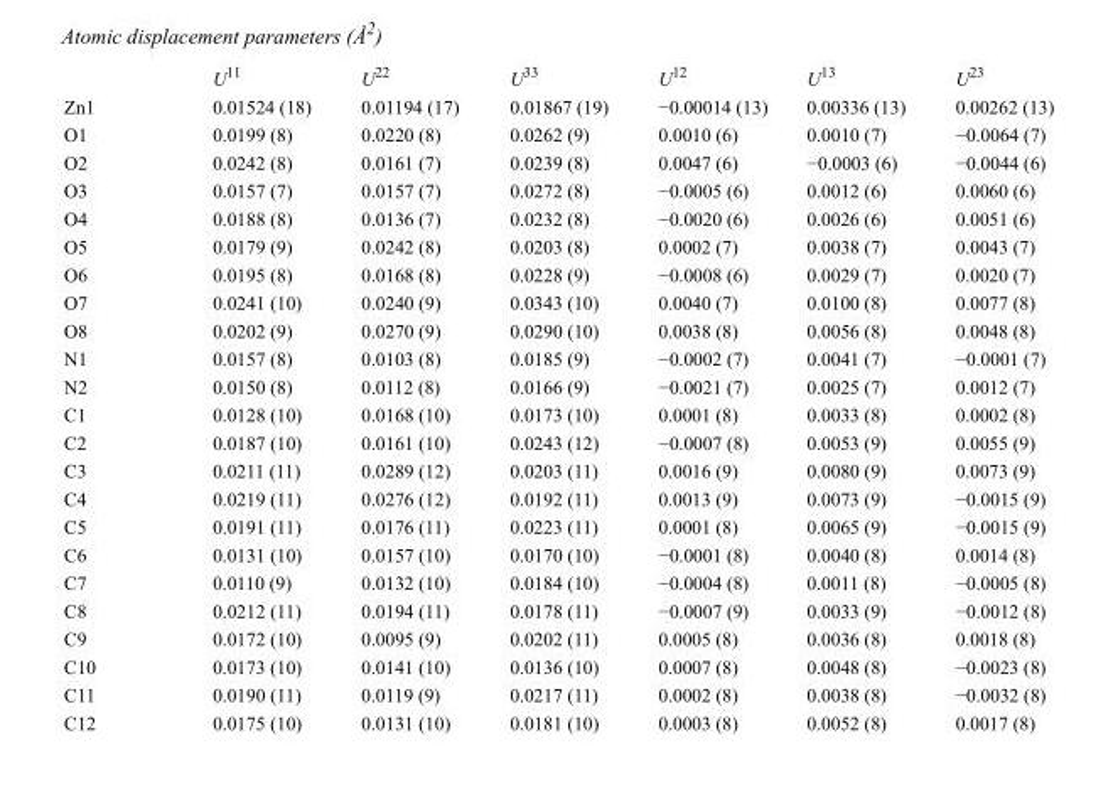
<table><thead><tr><td></td><td>U<sup>11</sup></td><td>U<sup>22</sup></td><td>U<sup>33</sup></td><td>U<sup>12</sup></td><td>U<sup>13</sup></td><td>U<sup>23</sup></td></tr></thead><tbody><tr><td>Zn1</td><td>0.01524 (18)</td><td>0.01194 (17)</td><td>0.01867 (19)</td><td>−0.00014 (13)</td><td>0.00336 (13)</td><td>0.00262 (13)</td></tr><tr><td>O1</td><td>0.0199 (8)</td><td>0.0220 (8)</td><td>0.0262 (9)</td><td>0.0010 (6)</td><td>0.0010 (7)</td><td>−0.0064 (7)</td></tr><tr><td>O2</td><td>0.0242 (8)</td><td>0.0161 (7)</td><td>0.0239 (8)</td><td>0.0047 (6)</td><td>−0.0003 (6)</td><td>−0.0044 (6)</td></tr><tr><td>O3</td><td>0.0157 (7)</td><td>0.0157 (7)</td><td>0.0272 (8)</td><td>−0.0005 (6)</td><td>0.0012 (6)</td><td>0.0060 (6)</td></tr><tr><td>O4</td><td>0.0188 (8)</td><td>0.0136 (7)</td><td>0.0232 (8)</td><td>−0.0020 (6)</td><td>0.0026 (6)</td><td>0.0051 (6)</td></tr><tr><td>O5</td><td>0.0179 (9)</td><td>0.0242 (8)</td><td>0.0203 (8)</td><td>0.0002 (7)</td><td>0.0038 (7)</td><td>0.0043 (7)</td></tr><tr><td>O6</td><td>0.0195 (8)</td><td>0.0168 (8)</td><td>0.0228 (9)</td><td>−0.0008 (6)</td><td>0.0029 (7)</td><td>0.0020 (7)</td></tr><tr><td>O7</td><td>0.0241 (10)</td><td>0.0240 (9)</td><td>0.0343 (10)</td><td>0.0040 (7)</td><td>0.0100 (8)</td><td>0.0077 (8)</td></tr><tr><td>O8</td><td>0.0202 (9)</td><td>0.0270 (9)</td><td>0.0290 (10)</td><td>0.0038 (8)</td><td>0.0056 (8)</td><td>0.0048 (8)</td></tr><tr><td>N1</td><td>0.0157 (8)</td><td>0.0103 (8)</td><td>0.0185 (9)</td><td>−0.0002 (7)</td><td>0.0041 (7)</td><td>−0.0001 (7)</td></tr><tr><td>N2</td><td>0.0150 (8)</td><td>0.0112 (8)</td><td>0.0166 (9)</td><td>−0.0021 (7)</td><td>0.0025 (7)</td><td>0.0012 (7)</td></tr><tr><td>C1</td><td>0.0128 (10)</td><td>0.0168 (10)</td><td>0.0173 (10)</td><td>0.0001 (8)</td><td>0.0033 (8)</td><td>0.0002 (8)</td></tr><tr><td>C2</td><td>0.0187 (10)</td><td>0.0161 (10)</td><td>0.0243 (12)</td><td>−0.0007 (8)</td><td>0.0053 (9)</td><td>0.0055 (9)</td></tr><tr><td>C3</td><td>0.0211 (11)</td><td>0.0289 (12)</td><td>0.0203 (11)</td><td>0.0016 (9)</td><td>0.0080 (9)</td><td>0.0073 (9)</td></tr><tr><td>C4</td><td>0.0219 (11)</td><td>0.0276 (12)</td><td>0.0192 (11)</td><td>0.0013 (9)</td><td>0.0073 (9)</td><td>−0.0015 (9)</td></tr><tr><td>C5</td><td>0.0191 (11)</td><td>0.0176 (11)</td><td>0.0223 (11)</td><td>0.0001 (8)</td><td>0.0065 (9)</td><td>−0.0015 (9)</td></tr><tr><td>C6</td><td>0.0131 (10)</td><td>0.0157 (10)</td><td>0.0170 (10)</td><td>−0.0001 (8)</td><td>0.0040 (8)</td><td>0.0014 (8)</td></tr><tr><td>C7</td><td>0.0110 (9)</td><td>0.0132 (10)</td><td>0.0184 (10)</td><td>−0.0004 (8)</td><td>0.0011 (8)</td><td>−0.0005 (8)</td></tr><tr><td>C8</td><td>0.0212 (11)</td><td>0.0194 (11)</td><td>0.0178 (11)</td><td>−0.0007 (9)</td><td>0.0033 (9)</td><td>−0.0012 (8)</td></tr><tr><td>C9</td><td>0.0172 (10)</td><td>0.0095 (9)</td><td>0.0202 (11)</td><td>0.0005 (8)</td><td>0.0036 (8)</td><td>0.0018 (8)</td></tr><tr><td>C10</td><td>0.0173 (10)</td><td>0.0141 (10)</td><td>0.0136 (10)</td><td>0.0007 (8)</td><td>0.0048 (8)</td><td>−0.0023 (8)</td></tr><tr><td>C11</td><td>0.0190 (11)</td><td>0.0119 (9)</td><td>0.0217 (11)</td><td>0.0002 (8)</td><td>0.0038 (8)</td><td>−0.0032 (8)</td></tr><tr><td>C12</td><td>0.0175 (10)</td><td>0.0131 (10)</td><td>0.0181 (10)</td><td>0.0003 (8)</td><td>0.0052 (8)</td><td>0.0017 (8)</td></tr></tbody></table>